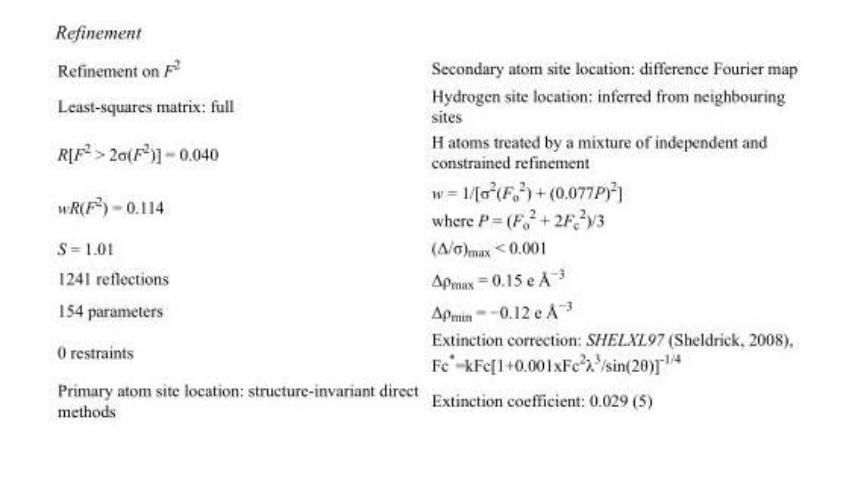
<table><tbody><tr><td>Refinement on F<sup>2</sup></td><td>Secondary atom site location: difference Fourier map</td></tr><tr><td>Least-squares matrix: full</td><td>Hydrogen site location: inferred from neighbouring sites</td></tr><tr><td>R[F<sup>2</sup> &gt; 2σ(F<sup>2</sup>)] = 0.040</td><td>H atoms treated by a mixture of independent and constrained refinement</td></tr><tr><td>wR(F<sup>2</sup>) = 0.114</td><td>w = 1/[σ<sup>2</sup>(F<sub>o</sub> <sup>2</sup>) + (0.077P)<sup>2</sup>] where P = (F<sub>o</sub> <sup>2</sup> + 2F<sub>c</sub> <sup>2</sup>)/3</td></tr><tr><td>S = 1.01</td><td>(Δ/σ)<sub>max</sub> &lt; 0.001</td></tr><tr><td>1241 reflections</td><td>Δρ<sub>max</sub> = 0.15 e Å<sup>−3</sup></td></tr><tr><td>154 parameters</td><td>Δρ<sub>min</sub> = −0.12 e Å<sup>−3</sup></td></tr><tr><td>0 restraints</td><td>Extinction correction: SHELXL97 (Sheldrick, 2008), Fc*=kFc[1+0.001xFc<sup>2</sup>λ<sup>3</sup>/sin(2θ)]<sup>-1/4</sup></td></tr><tr><td>Primary atom site location: structure-invariant direct methods</td><td>Extinction coefficient: 0.029 (5)</td></tr></tbody></table>